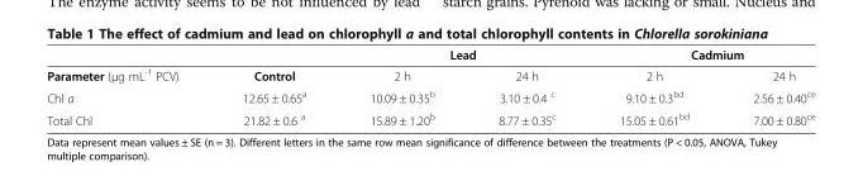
<table><thead><tr><td rowspan="2">Parameter (μg mL<sup>-1</sup> PCV)</td><td rowspan="2">Control</td><td colspan="2">Lead</td><td colspan="2">Cadmium</td></tr><tr><td>2 h</td><td>24 h</td><td>2 h</td><td>24 h</td></tr></thead><tbody><tr><td>Chl a</td><td>12.65 ± 0.65<sup>a</sup></td><td>10.09 ± 0.35<sup>b</sup></td><td>3.10 ± 0.4 <sup>c</sup></td><td>9.10 ± 0.3<sup>bd</sup></td><td>2.56 ± 0.40<sup>ce</sup></td></tr><tr><td>Total Chl</td><td>21.82 ± 0.6 <sup>a</sup></td><td>15.89 ± 1.20<sup>b</sup></td><td>8.77 ± 0.35<sup>c</sup></td><td>15.05 ± 0.61<sup>bd</sup></td><td>7.00 ± 0.80<sup>ce</sup></td></tr></tbody></table>